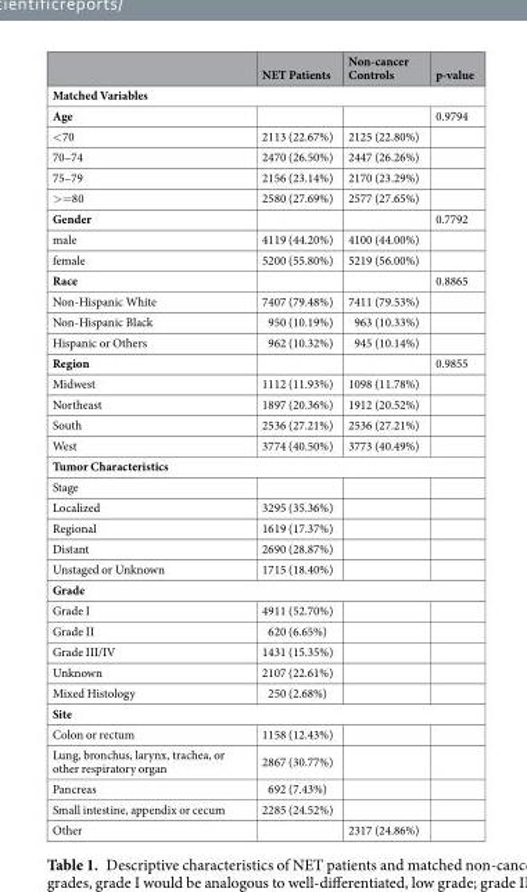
<table><thead><tr><td></td><td>NET Patients</td><td>Non-cancer Controls</td><td>p-value</td></tr></thead><tbody><tr><td colspan="4">Matched Variables</td></tr><tr><td>Age</td><td></td><td></td><td>0.9794</td></tr><tr><td>&lt;70</td><td>2113 (22.67%)</td><td>2125 (22.80%)</td><td></td></tr><tr><td>70–74</td><td>2470 (26.50%)</td><td>2447 (26.26%)</td><td></td></tr><tr><td>75–79</td><td>2156 (23.14%)</td><td>2170 (23.29%)</td><td></td></tr><tr><td>&gt;=80</td><td>2580 (27.69%)</td><td>2577 (27.65%)</td><td></td></tr><tr><td>Gender</td><td></td><td></td><td>0.7792</td></tr><tr><td>male</td><td>4119 (44.20%)</td><td>4100 (44.00%)</td><td></td></tr><tr><td>female</td><td>5200 (55.80%)</td><td>5219 (56.00%)</td><td></td></tr><tr><td>Race</td><td></td><td></td><td>0.8865</td></tr><tr><td>Non-Hispanic White</td><td>7407 (79.48%)</td><td>7411 (79.53%)</td><td></td></tr><tr><td>Non-Hispanic Black</td><td>950 (10.19%)</td><td>963 (10.33%)</td><td></td></tr><tr><td>Hispanic or Others</td><td>962 (10.32%)</td><td>945 (10.14%)</td><td></td></tr><tr><td>Region</td><td></td><td></td><td>0.9855</td></tr><tr><td>Midwest</td><td>1112 (11.93%)</td><td>1098 (11.78%)</td><td></td></tr><tr><td>Northeast</td><td>1897 (20.36%)</td><td>1912 (20.52%)</td><td></td></tr><tr><td>South</td><td>2536 (27.21%)</td><td>2536 (27.21%)</td><td></td></tr><tr><td>West</td><td>3774 (40.50%)</td><td>3773 (40.49%)</td><td></td></tr><tr><td colspan="4">Tumor Characteristics</td></tr><tr><td colspan="4">Stage</td></tr><tr><td>Localized</td><td>3295 (35.36%)</td><td></td><td></td></tr><tr><td>Regional</td><td>1619 (17.37%)</td><td></td><td></td></tr><tr><td>Distant</td><td>2690 (28.87%)</td><td></td><td></td></tr><tr><td>Unstaged or Unknown</td><td>1715 (18.40%)</td><td></td><td></td></tr><tr><td colspan="4">Grade</td></tr><tr><td>Grade I</td><td>4911 (52.70%)</td><td></td><td></td></tr><tr><td>Grade II</td><td>620 (6.65%)</td><td></td><td></td></tr><tr><td>Grade III/IV</td><td>1431 (15.35%)</td><td></td><td></td></tr><tr><td>Unknown</td><td>2107 (22.61%)</td><td></td><td></td></tr><tr><td>Mixed Histology</td><td>250 (2.68%)</td><td></td><td></td></tr><tr><td colspan="4">Site</td></tr><tr><td>Colon or rectum</td><td>1158 (12.43%)</td><td></td><td></td></tr><tr><td>Lung, bronchus, larynx, trachea, or other respiratory organ</td><td>2867 (30.77%)</td><td></td><td></td></tr><tr><td>Pancreas</td><td>692 (7.43%)</td><td></td><td></td></tr><tr><td>Small intestine, appendix or cecum</td><td>2285 (24.52%)</td><td></td><td></td></tr><tr><td>Other</td><td></td><td>2317 (24.86%)</td><td></td></tr></tbody></table>